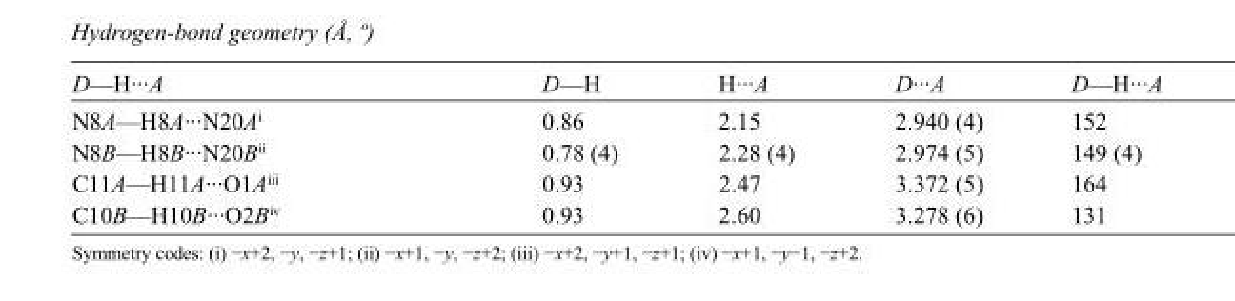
<table><tbody><tr><td>D—H···A</td><td>D—H</td><td>H···A</td><td>D···A</td><td>D—H···A</td></tr><tr><td>N8A—H8A···N20A<sup>i</sup></td><td>0.86</td><td>2.15</td><td>2.940 (4)</td><td>152</td></tr><tr><td>N8B—H8B···N20B<sup>ii</sup></td><td>0.78 (4)</td><td>2.28 (4)</td><td>2.974 (5)</td><td>149 (4)</td></tr><tr><td>C11A—H11A···O1A<sup>iii</sup></td><td>0.93</td><td>2.47</td><td>3.372 (5)</td><td>164</td></tr><tr><td>C10B—H10B···O2B<sup>iv</sup></td><td>0.93</td><td>2.60</td><td>3.278 (6)</td><td>131</td></tr></tbody></table>